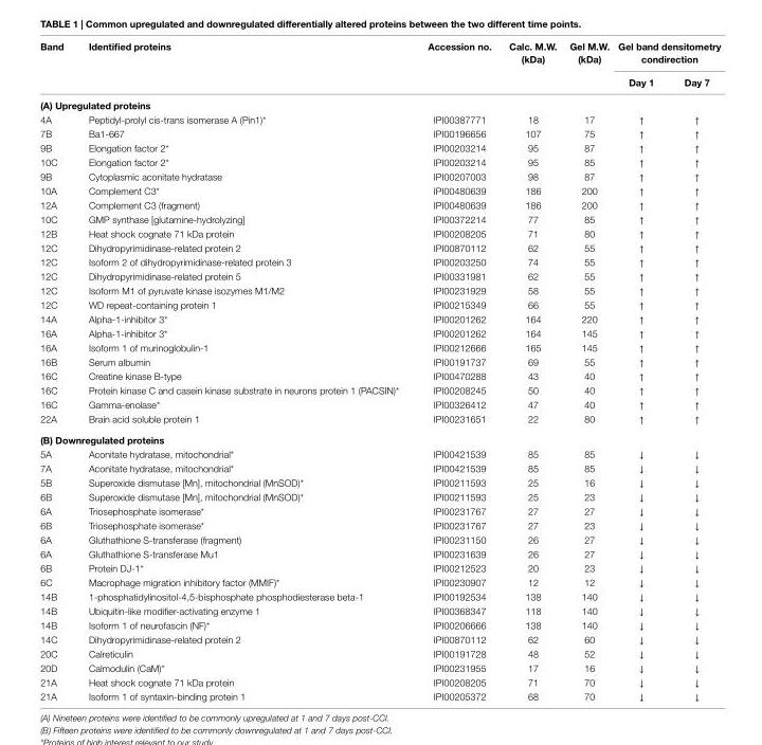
<table><thead><tr><td rowspan="2">Band</td><td rowspan="2">identified proteins</td><td rowspan="2">accession no.</td><td rowspan="2">calc. M.W. (kDa)</td><td rowspan="2">gel M.W. (kDa)</td><td colspan="2">gel band densitometry condirection</td></tr><tr><td>Day 1</td><td>Day 7</td></tr></thead><tbody><tr><td colspan="7">(a) Upregulated proteins</td></tr><tr><td>4A</td><td>Peptidyl-prolyl cis-trans isomerase A (Pin1)*</td><td>IPI00387771</td><td>18</td><td>17</td><td>↑</td><td>↑</td></tr><tr><td>7B</td><td>Ba1-667</td><td>IPI00196656</td><td>107</td><td>75</td><td>↑</td><td>↑</td></tr><tr><td>9B</td><td>Elongation factor 2*</td><td>IPI00203214</td><td>95</td><td>87</td><td>↑</td><td>↑</td></tr><tr><td>10C</td><td>Elongation factor 2*</td><td>IPI00203214</td><td>95</td><td>85</td><td>↑</td><td>↑</td></tr><tr><td>9B</td><td>Cytoplasmic aconitate hydratase</td><td>IPI00207003</td><td>98</td><td>87</td><td>↑</td><td>↑</td></tr><tr><td>10A</td><td>Complement C3*</td><td>IPI00480639</td><td>186</td><td>200</td><td>↑</td><td>↑</td></tr><tr><td>12A</td><td>Complement C3 (fragment)</td><td>IPI00480639</td><td>186</td><td>200</td><td>↑</td><td>↑</td></tr><tr><td>10C</td><td>GMP synthase [glutamine-hydrolyzing]</td><td>IPI00372214</td><td>77</td><td>85</td><td>↑</td><td>↑</td></tr><tr><td>12B</td><td>Heat shock cognate 71 kDa protein</td><td>IPI00208205</td><td>71</td><td>80</td><td>↑</td><td>↑</td></tr><tr><td>12C</td><td>Dihydropyrimidinase-related protein 2</td><td>IPI00870112</td><td>62</td><td>55</td><td>↑</td><td>↑</td></tr><tr><td>12C</td><td>Isoform 2 of dihydropyrimidinase-related protein 3</td><td>IPI00203250</td><td>74</td><td>55</td><td>↑</td><td>↑</td></tr><tr><td>12C</td><td>Dihydropyrimidinase-related protein 5</td><td>IPI00331981</td><td>62</td><td>55</td><td>↑</td><td>↑</td></tr><tr><td>12C</td><td>Isoform M1 of pyruvate kinase isozymes M1/M2</td><td>IPI00231929</td><td>58</td><td>55</td><td>↑</td><td>↑</td></tr><tr><td>12C</td><td>WD repeat-containing protein 1</td><td>IPI00215349</td><td>66</td><td>55</td><td>↑</td><td>↑</td></tr><tr><td>14A</td><td>Alpha-1-inhibitor 3*</td><td>IPI00201262</td><td>164</td><td>220</td><td>↑</td><td>↑</td></tr><tr><td>16A</td><td>Alpha-1-inhibitor 3*</td><td>IPI00201262</td><td>164</td><td>145</td><td>↑</td><td>↑</td></tr><tr><td>16A</td><td>Isoform 1 of murinoglobulin-1</td><td>IPI00212666</td><td>165</td><td>145</td><td>↑</td><td>↑</td></tr><tr><td>16B</td><td>Serum albumin</td><td>IPI00191737</td><td>69</td><td>55</td><td>↑</td><td>↑</td></tr><tr><td>16C</td><td>Creatine kinase B-type</td><td>IPI00470288</td><td>43</td><td>40</td><td>↑</td><td>↑</td></tr><tr><td>16C</td><td>Protein kinase C and casein kinase substrate in neurons protein 1 (PACSIN)*</td><td>IPI00208245</td><td>50</td><td>40</td><td>↑</td><td>↑</td></tr><tr><td>16C</td><td>Gamma-enolase*</td><td>IPI00326412</td><td>47</td><td>40</td><td>↑</td><td>↑</td></tr><tr><td>22A</td><td>Brain acid soluble protein 1</td><td>IPI00231651</td><td>22</td><td>80</td><td>↑</td><td>↑</td></tr><tr><td colspan="7">(B) Downregulated proteins</td></tr><tr><td>5A</td><td>Aconitate hydratase, mitochondrial*</td><td>IPI00421539</td><td>85</td><td>85</td><td>↓</td><td>↓</td></tr><tr><td>7A</td><td>Aconitate hydratase, mitochondrial*</td><td>IPI00421539</td><td>85</td><td>85</td><td>↓</td><td>↓</td></tr><tr><td>5B</td><td>Superoxide dismutase [Mn], mitochondrial (MnSOD)*</td><td>IPI00211593</td><td>25</td><td>16</td><td>↓</td><td>↓</td></tr><tr><td>6B</td><td>Superoxide dismutase [Mn], mitochondrial (MnSOD)*</td><td>IPI00211593</td><td>25</td><td>23</td><td>↓</td><td>↓</td></tr><tr><td>6A</td><td>Triosephosphate isomerase*</td><td>IPI00231767</td><td>27</td><td>27</td><td>↓</td><td>↓</td></tr><tr><td>6B</td><td>Triosephosphate isomerase*</td><td>IPI00231767</td><td>27</td><td>23</td><td>↓</td><td>↓</td></tr><tr><td>6A</td><td>Gluthathione S-transferase (fragment)</td><td>IPI00231150</td><td>26</td><td>27</td><td>↓</td><td>↓</td></tr><tr><td>6A</td><td>Gluthathione S-transferase Mu1</td><td>IPI00231639</td><td>26</td><td>27</td><td>↓</td><td>↓</td></tr><tr><td>6B</td><td>Protein DJ-1*</td><td>IPI00212523</td><td>20</td><td>23</td><td>↓</td><td>↓</td></tr><tr><td>6C</td><td>Macrophage migration inhibitory factor (MMIF)*</td><td>IPI00230907</td><td>12</td><td>12</td><td>↓</td><td>↓</td></tr><tr><td>14B</td><td>1-phosphatidylinositol-4,5-bisphosphate phosphodiesterase beta-1</td><td>IPI00192534</td><td>138</td><td>140</td><td>↓</td><td>↓</td></tr><tr><td>14B</td><td>Ubiquitin-like modifier-activating enzyme 1</td><td>IPI00368347</td><td>118</td><td>140</td><td>↓</td><td>↓</td></tr><tr><td>14B</td><td>Isoform 1 of neurofascin (NF)*</td><td>IPI00206666</td><td>138</td><td>140</td><td>↓</td><td>↓</td></tr><tr><td>14C</td><td>Dihydropyrimidinase-related protein 2</td><td>IPI00870112</td><td>62</td><td>60</td><td>↓</td><td>↓</td></tr><tr><td>20C</td><td>Calreticulin</td><td>IPI00191728</td><td>48</td><td>52</td><td>↓</td><td>↓</td></tr><tr><td>20D</td><td>Calmodulin (CaM)*</td><td>IPI00231955</td><td>17</td><td>16</td><td>↓</td><td>↓</td></tr><tr><td>21A</td><td>Heat shock cognate 71 kDa protein</td><td>IPI00208205</td><td>71</td><td>70</td><td>↓</td><td>↓</td></tr><tr><td>21A</td><td>Isoform 1 of syntaxin-binding protein 1</td><td>IPI00205372</td><td>68</td><td>70</td><td>↓</td><td>↓</td></tr></tbody></table>